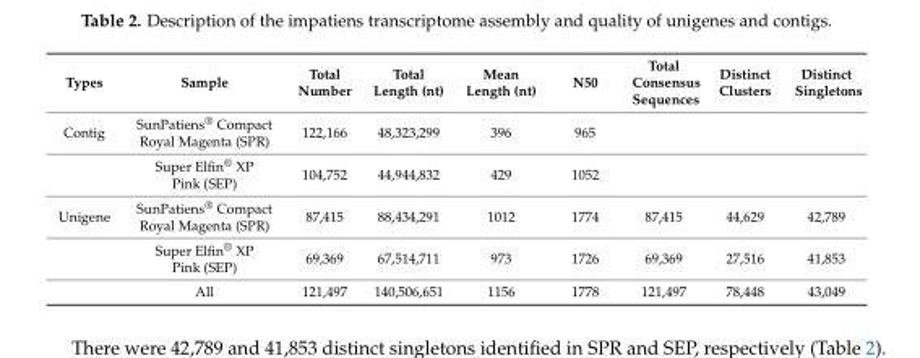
<table><thead><tr><td>Types</td><td>Sample</td><td>Total Number</td><td>Total Length (nt)</td><td>Mean Length (nt)</td><td>N50</td><td>Total Consensus Sequences</td><td>Distinct Clusters</td><td>Distinct Singletons</td></tr></thead><tbody><tr><td rowspan="2">Contig</td><td>SunPatiens<sup>®</sup> Compact Royal Magenta (SPR)</td><td>122,166</td><td>48,323,299</td><td>396</td><td>965</td><td></td><td></td><td></td></tr><tr><td>Super Elfin<sup>®</sup> XP Pink (SEP)</td><td>104,752</td><td>44,944,832</td><td>429</td><td>1052</td><td></td><td></td><td></td></tr><tr><td rowspan="3">Unigene</td><td>SunPatiens<sup>®</sup> Compact Royal Magenta (SPR)</td><td>87,415</td><td>88,434,291</td><td>1012</td><td>1774</td><td>87,415</td><td>44,629</td><td>42,789</td></tr><tr><td>Super Elfin<sup>®</sup> XP Pink (SEP)</td><td>69,369</td><td>67,514,711</td><td>973</td><td>1726</td><td>69,369</td><td>27,516</td><td>41,853</td></tr><tr><td>All</td><td>121,497</td><td>140,506,651</td><td>1156</td><td>1778</td><td>121,497</td><td>78,448</td><td>43,049</td></tr></tbody></table>